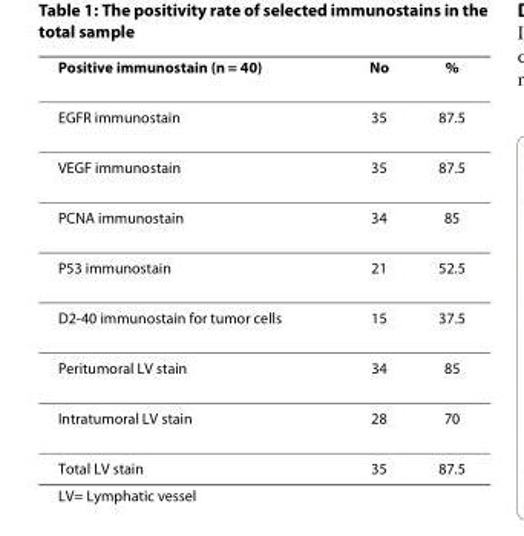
<table><thead><tr><td>Positive immunostain (n = 40)</td><td>No</td><td>%</td></tr></thead><tbody><tr><td>EGFR immunostain</td><td>35</td><td>87.5</td></tr><tr><td>VEGF immunostain</td><td>35</td><td>87.5</td></tr><tr><td>PCNA immunostain</td><td>34</td><td>85</td></tr><tr><td>P53 immunostain</td><td>21</td><td>52.5</td></tr><tr><td>D2-40 immunostain for tumor cells</td><td>15</td><td>37.5</td></tr><tr><td>Peritumoral LV stain</td><td>34</td><td>85</td></tr><tr><td>Intratumoral LV stain</td><td>28</td><td>70</td></tr><tr><td>Total LV stain</td><td>35</td><td>87.5</td></tr></tbody></table>